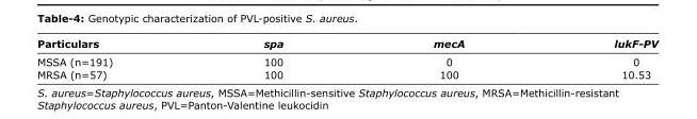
<table><thead><tr><td>Particulars</td><td>spa</td><td>mecA</td><td>lukF-PV</td></tr></thead><tbody><tr><td>MSSA (n=191)</td><td>100</td><td>0</td><td>0</td></tr><tr><td>MRSA (n=57)</td><td>100</td><td>100</td><td>10.53</td></tr></tbody></table>